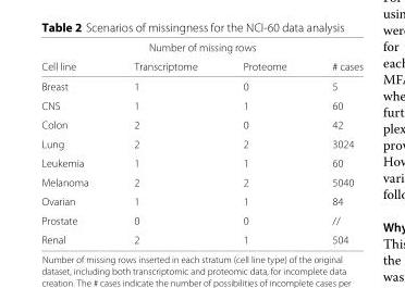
<table><thead><tr><td colspan="4">Number of missing rows</td></tr><tr><td>Cell line</td><td>Transcriptome</td><td>Proteome</td><td># cases</td></tr></thead><tbody><tr><td>Breast</td><td>1</td><td>0</td><td>5</td></tr><tr><td>CNS</td><td>1</td><td>1</td><td>60</td></tr><tr><td>Colon</td><td>2</td><td>0</td><td>42</td></tr><tr><td>Lung</td><td>2</td><td>2</td><td>3024</td></tr><tr><td>Leukemia</td><td>1</td><td>1</td><td>60</td></tr><tr><td>Melanoma</td><td>2</td><td>2</td><td>5040</td></tr><tr><td>Ovarian</td><td>1</td><td>1</td><td>84</td></tr><tr><td>Prostate</td><td>0</td><td>0</td><td>//</td></tr><tr><td>Renal</td><td>2</td><td>1</td><td>504</td></tr></tbody></table>